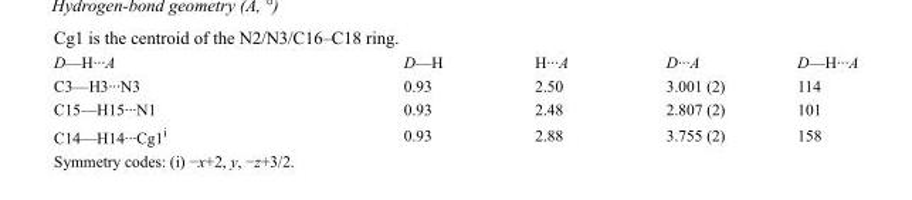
<table><tbody><tr><td>D—H···A</td><td>D—H</td><td>H···A</td><td>D···A</td><td>D—H···A</td></tr><tr><td>C3—H3···N3</td><td>0.93</td><td>2.50</td><td>3.001 (2)</td><td>114</td></tr><tr><td>C15—H15···N1</td><td>0.93</td><td>2.48</td><td>2.807 (2)</td><td>101</td></tr><tr><td>C14—H14···Cg1<sup>i</sup></td><td>0.93</td><td>2.88</td><td>3.755 (2)</td><td>158</td></tr></tbody></table>